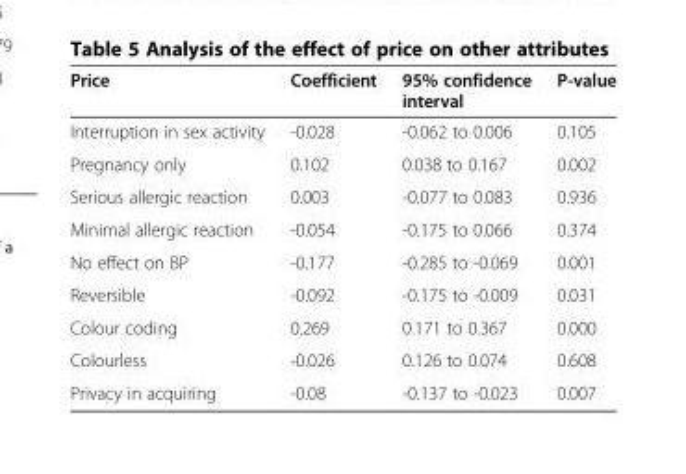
<table><thead><tr><td>Price</td><td>Coefficient</td><td>95% confidence interval</td><td>P-value</td></tr></thead><tbody><tr><td>Interruption in sex activity</td><td>-0.028</td><td>-0.062 to 0.006</td><td>0.105</td></tr><tr><td>Pregnancy only</td><td>0.102</td><td>0.038 to 0.167</td><td>0.002</td></tr><tr><td>Serious allergic reaction</td><td>0.003</td><td>-0.077 to 0.083</td><td>0.936</td></tr><tr><td>Minimal allergic reaction</td><td>-0.054</td><td>-0.175 to 0.066</td><td>0.374</td></tr><tr><td>No effect on BP</td><td>-0.177</td><td>-0.285 to -0.069</td><td>0.001</td></tr><tr><td>Reversible</td><td>-0.092</td><td>-0.175 to -0.009</td><td>0.031</td></tr><tr><td>Colour coding</td><td>0.269</td><td>0.171 to 0.367</td><td>0.000</td></tr><tr><td>Colourless</td><td>-0.026</td><td>0.126 to 0.074</td><td>0.608</td></tr><tr><td>Privacy in acquiring</td><td>-0.08</td><td>-0.137 to -0.023</td><td>0.007</td></tr></tbody></table>